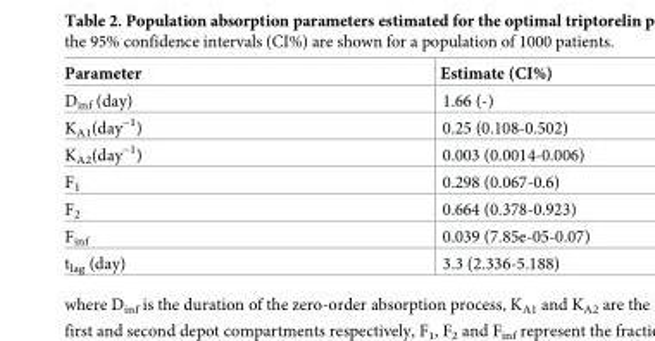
<table><thead><tr><td>Parameter</td><td>Estimate (CI%)</td></tr></thead><tbody><tr><td>D<sub>inf</sub> (day)</td><td>1.66 (-)</td></tr><tr><td>K<sub>A1</sub>(day<sup>−1</sup>)</td><td>0.25 (0.108-0.502)</td></tr><tr><td>K<sub>A2</sub>(day<sup>−1</sup>)</td><td>0.003 (0.0014-0.006)</td></tr><tr><td>F<sub>1</sub></td><td>0.298 (0.067-0.6)</td></tr><tr><td>F<sub>2</sub></td><td>0.664 (0.378-0.923)</td></tr><tr><td>F<sub>inf</sub></td><td>0.039 (7.85e-05-0.07)</td></tr><tr><td>t<sub>lag</sub> (day)</td><td>3.3 (2.336-5.188)</td></tr></tbody></table>